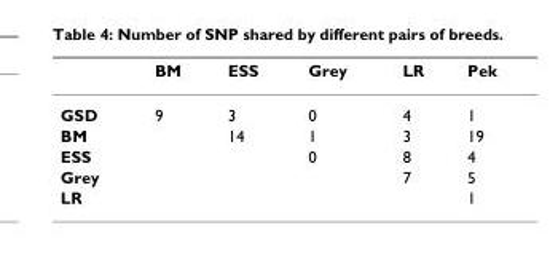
<table><thead><tr><td></td><td>BM</td><td>ESS</td><td>Grey</td><td>LR</td><td>Pek</td></tr></thead><tbody><tr><td>GSD</td><td>9</td><td>3</td><td>0</td><td>4</td><td>1</td></tr><tr><td>BM</td><td></td><td>14</td><td>1</td><td>3</td><td>19</td></tr><tr><td>ESS</td><td></td><td></td><td>0</td><td>8</td><td>4</td></tr><tr><td>Grey</td><td></td><td></td><td></td><td>7</td><td>5</td></tr><tr><td>LR</td><td></td><td></td><td></td><td></td><td>1</td></tr></tbody></table>